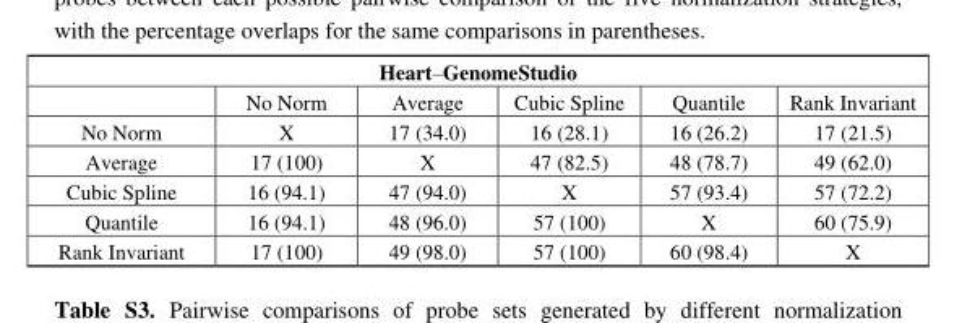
<table><thead><tr><td colspan="6">Heart–GenomeStudio</td></tr><tr><td></td><td>No Norm</td><td>Average</td><td>Cubic Spline</td><td>Quantile</td><td>Rank Invariant</td></tr></thead><tbody><tr><td>No Norm</td><td>X</td><td>17 (34.0)</td><td>16 (28.1)</td><td>16 (26.2)</td><td>17 (21.5)</td></tr><tr><td>Average</td><td>17 (100)</td><td>X</td><td>47 (82.5)</td><td>48 (78.7)</td><td>49 (62.0)</td></tr><tr><td>Cubic Spline</td><td>16 (94.1)</td><td>47 (94.0)</td><td>X</td><td>57 (93.4)</td><td>57 (72.2)</td></tr><tr><td>Quantile</td><td>16 (94.1)</td><td>48 (96.0)</td><td>57 (100)</td><td>X</td><td>60 (75.9)</td></tr><tr><td>Rank Invariant</td><td>17 (100)</td><td>49 (98.0)</td><td>57 (100)</td><td>60 (98.4)</td><td>X</td></tr></tbody></table>